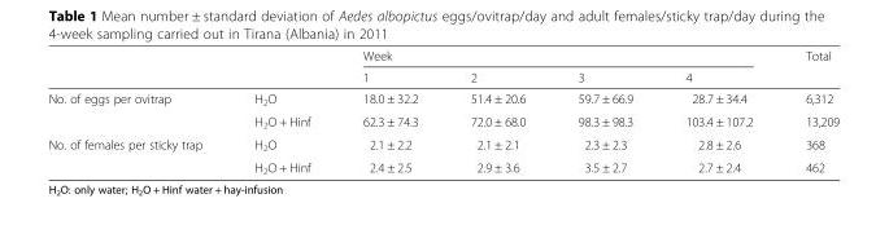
<table><thead><tr><td rowspan="2"></td><td rowspan="2"></td><td colspan="4">Week</td><td rowspan="2">Total</td></tr><tr><td>1</td><td>2</td><td>3</td><td>4</td></tr></thead><tbody><tr><td rowspan="2">No. of eggs per ovitrap</td><td>H<sub>2</sub>O</td><td>18.0 ± 32.2</td><td>51.4 ± 20.6</td><td>59.7 ± 66.9</td><td>28.7 ± 34.4</td><td>6,312</td></tr><tr><td>H<sub>2</sub>O + Hinf</td><td>62.3 ± 74.3</td><td>72.0 ± 68.0</td><td>98.3 ± 98.3</td><td>103.4 ± 107.2</td><td>13,209</td></tr><tr><td rowspan="2">No. of females per sticky trap</td><td>H<sub>2</sub>O</td><td>2.1 ± 2.2</td><td>2.1 ± 2.1</td><td>2.3 ± 2.3</td><td>2.8 ± 2.6</td><td>368</td></tr><tr><td>H<sub>2</sub>O + Hinf</td><td>2.4 ± 2.5</td><td>2.9 ± 3.6</td><td>3.5 ± 2.7</td><td>2.7 ± 2.4</td><td>462</td></tr></tbody></table>